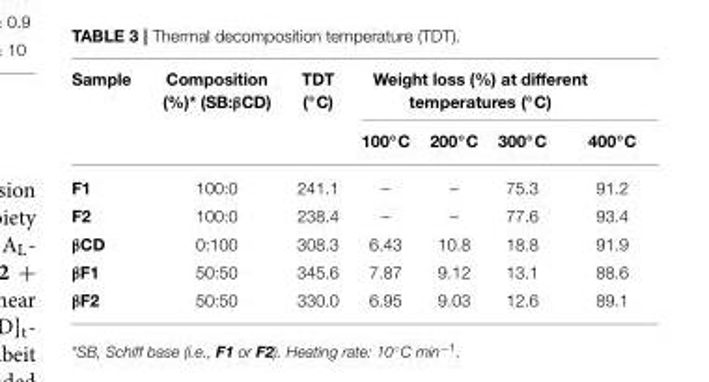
<table><thead><tr><td rowspan="2">Sample</td><td rowspan="2">Composition (%)* (SB:βCD)</td><td rowspan="2">TDT (◦C)</td><td colspan="4">Weight loss (%) at different temperatures (◦C)</td></tr><tr><td>100◦C</td><td>200◦C</td><td>300◦C</td><td>400◦C</td></tr></thead><tbody><tr><td>F1</td><td>100:0</td><td>241.1</td><td>–</td><td>–</td><td>75.3</td><td>91.2</td></tr><tr><td>F2</td><td>100:0</td><td>238.4</td><td>–</td><td>–</td><td>77.6</td><td>93.4</td></tr><tr><td>βCD</td><td>0:100</td><td>308.3</td><td>6.43</td><td>10.8</td><td>18.8</td><td>91.9</td></tr><tr><td>βF1</td><td>50:50</td><td>345.6</td><td>7.87</td><td>9.12</td><td>13.1</td><td>88.6</td></tr><tr><td>βF2</td><td>50:50</td><td>330.0</td><td>6.95</td><td>9.03</td><td>12.6</td><td>89.1</td></tr></tbody></table>